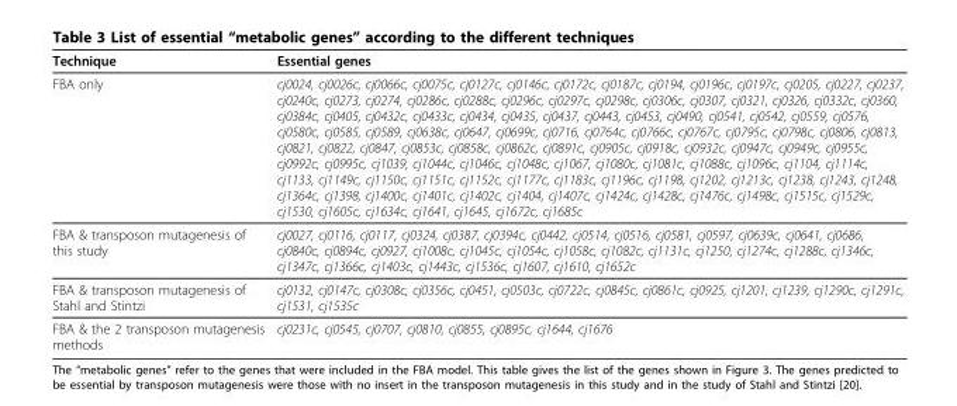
<table><thead><tr><td>Technique</td><td>Essential genes</td></tr></thead><tbody><tr><td>FBA only</td><td>cj0024, cj0026c, cj0066c, cj0075c, cj0127c, cj0146c, cj0172c, cj0187c, cj0194, cj0196c, cj0197c, cj0205, cj0227, cj0237, cj0240c, cj0273, cj0274, cj0286c, cj0288c, cj0296c, cj0297c, cj0298c, cj0306c, cj0307, cj0321, cj0326, cj0332c, cj0360, cj0384c, cj0405, cj0432c, cj0433c, cj0434, cj0435, cj0437, cj0443, cj0453, cj0490, cj0541, cj0542, cj0559, cj0576, cj0580c, cj0585, cj0589, cj0638c, cj0647, cj0699c, cj0716, cj0764c, cj0766c, cj0767c, cj0795c, cj0798c, cj0806, cj0813, cj0821, cj0822, cj0847, cj0853c, cj0858c, cj0862c, cj0891c, cj0905c, cj0918c, cj0932c, cj0947c, cj0949c, cj0955c, cj0992c, cj0995c, cj1039, cj1044c, cj1046c, cj1048c, cj1067, cj1080c, cj1081c, cj1088c, cj1096c, cj1104, cj1114c, cj1133, cj1149c, cj1150c, cj1151c, cj1152c, cj1177c, cj1183c, cj1196c, cj1198, cj1202, cj1213c, cj1238, cj1243, cj1248, cj1364c, cj1398, cj1400c, cj1401c, cj1402c, cj1404, cj1407c, cj1424c, cj1428c, cj1476c, cj1498c, cj1515c, cj1529c, cj1530, cj1605c, cj1634c, cj1641, cj1645, cj1672c, cj1685c</td></tr><tr><td>FBA &amp; transposon mutagenesis of this study</td><td>cj0027, cj0116, cj0117, cj0324, cj0387, cj0394c, cj0442, cj0514, cj0516, cj0581, cj0597, cj0639c, cj0641, cj0686, cj0840c, cj0894c, cj0927, cj1008c, cj1045c, cj1054c, cj1058c, cj1082c, cj1131c, cj1250, cj1274c, cj1288c, cj1346c, cj1347c, cj1366c, cj1403c, cj1443c, cj1536c, cj1607, cj1610, cj1652c</td></tr><tr><td>FBA &amp; transposon mutagenesis of Stahl and Stintzi</td><td>cj0132, cj0147c, cj0308c, cj0356c, cj0451, cj0503c, cj0722c, cj0845c, cj0861c, cj0925, cj1201, cj1239, cj1290c, cj1291c, cj1531, cj1535c</td></tr><tr><td>FBA &amp; the 2 transposon mutagenesis methods</td><td>cj0231c, cj0545, cj0707, cj0810, cj0855, cj0895c, cj1644, cj1676</td></tr></tbody></table>